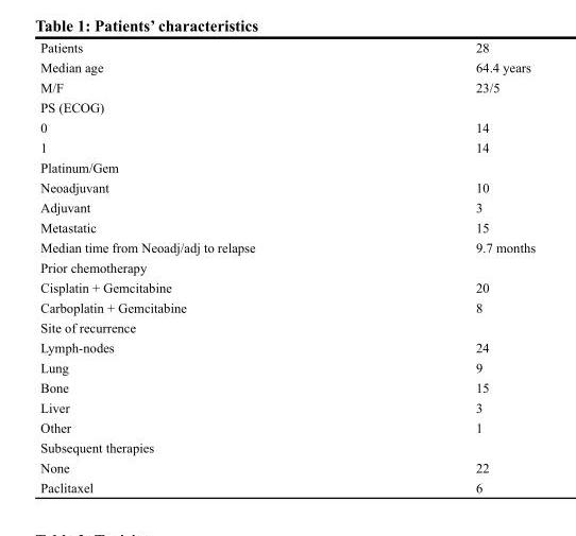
<table><tbody><tr><td>Patients</td><td>28</td></tr><tr><td>Median age</td><td>64.4 years</td></tr><tr><td>M/F</td><td>23/5</td></tr><tr><td colspan="2">PS (ECOG)</td></tr><tr><td>0</td><td>14</td></tr><tr><td>1</td><td>14</td></tr><tr><td colspan="2">Platinum/Gem</td></tr><tr><td>Neoadjuvant</td><td>10</td></tr><tr><td>Adjuvant</td><td>3</td></tr><tr><td>Metastatic</td><td>15</td></tr><tr><td>Median time from Neoadj/adj to relapse</td><td>9.7 months</td></tr><tr><td colspan="2">Prior chemotherapy</td></tr><tr><td>Cisplatin + Gemcitabine</td><td>20</td></tr><tr><td>Carboplatin + Gemcitabine</td><td>8</td></tr><tr><td colspan="2">Site of recurrence</td></tr><tr><td>Lymph-nodes</td><td>24</td></tr><tr><td>Lung</td><td>9</td></tr><tr><td>Bone</td><td>15</td></tr><tr><td>Liver</td><td>3</td></tr><tr><td>Other</td><td>1</td></tr><tr><td colspan="2">Subsequent therapies</td></tr><tr><td>None</td><td>22</td></tr><tr><td>Paclitaxel</td><td>6</td></tr></tbody></table>